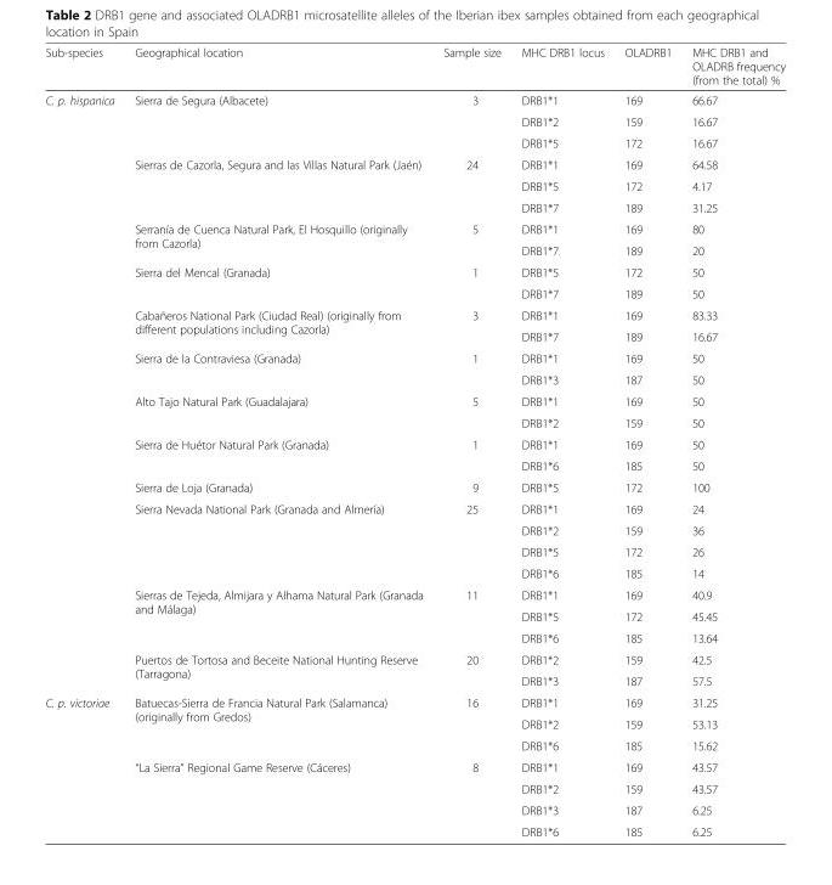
<table><thead><tr><td>Sub-species</td><td>Geographical location</td><td>Sample size</td><td>MHC DRB1 locus</td><td>OLADRB1</td><td>MHC DRB1 and OLADRB frequency (from the total) %</td></tr></thead><tbody><tr><td rowspan="28">C. p. hispanica</td><td rowspan="3">Sierra de Segura (Albacete)</td><td rowspan="3">3</td><td>DRB1*1</td><td>169</td><td>66.67</td></tr><tr><td>DRB1*2</td><td>159</td><td>16.67</td></tr><tr><td>DRB1*5</td><td>172</td><td>16.67</td></tr><tr><td rowspan="3">Sierras de Cazorla, Segura and las Villas Natural Park (Jaén)</td><td rowspan="3">24</td><td>DRB1*1</td><td>169</td><td>64.58</td></tr><tr><td>DRB1*5</td><td>172</td><td>4.17</td></tr><tr><td>DRB1*7</td><td>189</td><td>31.25</td></tr><tr><td rowspan="2">Serranía de Cuenca Natural Park, El Hosquillo (originally from Cazorla)</td><td rowspan="2">5</td><td>DRB1*1</td><td>169</td><td>80</td></tr><tr><td>DRB1*7</td><td>189</td><td>20</td></tr><tr><td rowspan="2">Sierra del Mencal (Granada)</td><td rowspan="2">1</td><td>DRB1*5</td><td>172</td><td>50</td></tr><tr><td>DRB1*7</td><td>189</td><td>50</td></tr><tr><td rowspan="2">Cabañeros National Park (Ciudad Real) (originally from different populations including Cazorla)</td><td rowspan="2">3</td><td>DRB1*1</td><td>169</td><td>83.33</td></tr><tr><td>DRB1*7</td><td>189</td><td>16.67</td></tr><tr><td rowspan="2">Sierra de la Contraviesa (Granada)</td><td rowspan="2">1</td><td>DRB1*1</td><td>169</td><td>50</td></tr><tr><td>DRB1*3</td><td>187</td><td>50</td></tr><tr><td rowspan="2">Alto Tajo Natural Park (Guadalajara)</td><td rowspan="2">5</td><td>DRB1*1</td><td>169</td><td>50</td></tr><tr><td>DRB1*2</td><td>159</td><td>50</td></tr><tr><td rowspan="2">Sierra de Huétor Natural Park (Granada)</td><td rowspan="2">1</td><td>DRB1*1</td><td>169</td><td>50</td></tr><tr><td>DRB1*6</td><td>185</td><td>50</td></tr><tr><td>Sierra de Loja (Granada)</td><td>9</td><td>DRB1*5</td><td>172</td><td>100</td></tr><tr><td rowspan="4">Sierra Nevada National Park (Granada and Almería)</td><td rowspan="4">25</td><td>DRB1*1</td><td>169</td><td>24</td></tr><tr><td>DRB1*2</td><td>159</td><td>36</td></tr><tr><td>DRB1*5</td><td>172</td><td>26</td></tr><tr><td>DRB1*6</td><td>185</td><td>14</td></tr><tr><td rowspan="3">Sierras de Tejeda, Almijara y Alhama Natural Park (Granada and Málaga)</td><td rowspan="3">11</td><td>DRB1*1</td><td>169</td><td>40.9</td></tr><tr><td>DRB1*5</td><td>172</td><td>45.45</td></tr><tr><td>DRB1*6</td><td>185</td><td>13.64</td></tr><tr><td rowspan="2">Puertos de Tortosa and Beceite National Hunting Reserve (Tarragona)</td><td rowspan="2">20</td><td>DRB1*2</td><td>159</td><td>42.5</td></tr><tr><td>DRB1*3</td><td>187</td><td>57.5</td></tr><tr><td rowspan="7">C. p. victoriae</td><td rowspan="3">Batuecas-Sierra de Francia Natural Park (Salamanca) (originally from Gredos)</td><td rowspan="3">16</td><td>DRB1*1</td><td>169</td><td>31.25</td></tr><tr><td>DRB1*2</td><td>159</td><td>53.13</td></tr><tr><td>DRB1*6</td><td>185</td><td>15.62</td></tr><tr><td rowspan="4">“La Sierra” Regional Game Reserve (Cáceres)</td><td rowspan="4">8</td><td>DRB1*1</td><td>169</td><td>43.57</td></tr><tr><td>DRB1*2</td><td>159</td><td>43.57</td></tr><tr><td>DRB1*3</td><td>187</td><td>6.25</td></tr><tr><td>DRB1*6</td><td>185</td><td>6.25</td></tr></tbody></table>